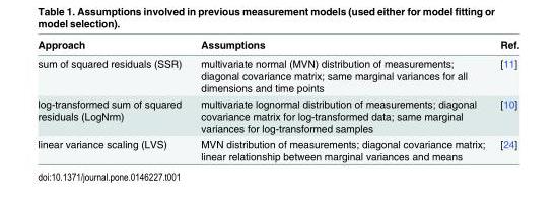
<table><thead><tr><td>Approach</td><td>Assumptions</td><td>Ref.</td></tr></thead><tbody><tr><td>sum of squared residuals (SSR)</td><td>multivariate normal (MVN) distribution of measurements; diagonal covariance matrix; same marginal variances for all dimensions and time points</td><td>[11]</td></tr><tr><td>log-transformed sum of squared residuals (LogNrm)</td><td>multivariate lognormal distribution of measurements; diagonal covariance matrix for log-transformed data; same marginal variances for log-transformed samples</td><td>[10]</td></tr><tr><td>linear variance scaling (LVS)</td><td>MVN distribution of measurements; diagonal covariance matrix; linear relationship between marginal variances and means</td><td>[24]</td></tr></tbody></table>